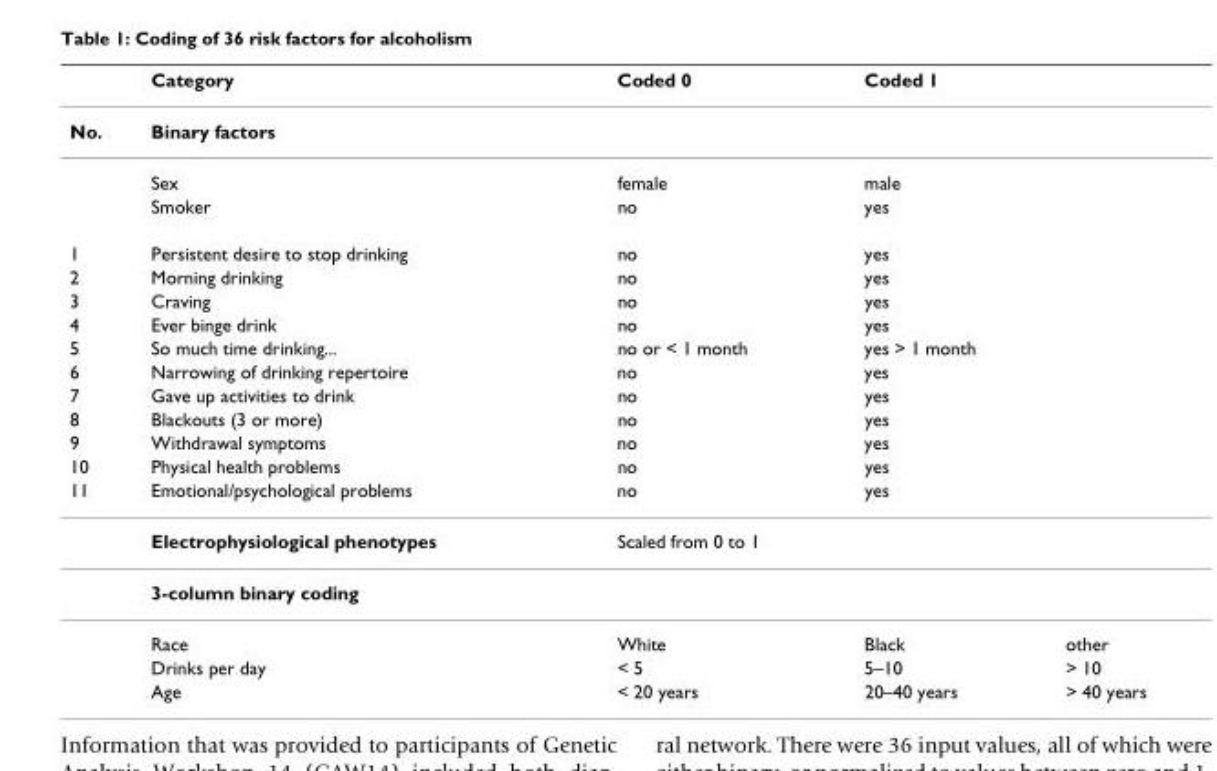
<table><thead><tr><td></td><td>Category</td><td>Coded 0</td><td>Coded 1</td><td></td></tr></thead><tbody><tr><td rowspan="3">No.</td><td>Binary factors</td><td></td><td></td><td></td></tr><tr><td>Sex</td><td>female</td><td>male</td><td></td></tr><tr><td>Smoker</td><td>no</td><td>yes</td><td></td></tr><tr><td>1</td><td>Persistent desire to stop drinking</td><td>no</td><td>yes</td><td></td></tr><tr><td>2</td><td>Morning drinking</td><td>no</td><td>yes</td><td></td></tr><tr><td>3</td><td>Craving</td><td>no</td><td>yes</td><td></td></tr><tr><td>4</td><td>Ever binge drink</td><td>no</td><td>yes</td><td></td></tr><tr><td>5</td><td>So much time drinking...</td><td>no or &lt; 1 month</td><td>yes &gt; 1 month</td><td></td></tr><tr><td>6</td><td>Narrowing of drinking repertoire</td><td>no</td><td>yes</td><td></td></tr><tr><td>7</td><td>Gave up activities to drink</td><td>no</td><td>yes</td><td></td></tr><tr><td>8</td><td>Blackouts (3 or more)</td><td>no</td><td>yes</td><td></td></tr><tr><td>9</td><td>Withdrawal symptoms</td><td>no</td><td>yes</td><td></td></tr><tr><td>10</td><td>Physical health problems</td><td>no</td><td>yes</td><td></td></tr><tr><td rowspan="6">11</td><td>Emotional/psychological problems</td><td>no</td><td>yes</td><td></td></tr><tr><td>Electrophysiological phenotypes</td><td>Scaled from 0 to 1</td><td></td><td></td></tr><tr><td>3-column binary coding</td><td></td><td></td><td></td></tr><tr><td>Race</td><td>White</td><td>Black</td><td>other</td></tr><tr><td>Drinks per day</td><td>&lt; 5</td><td>5–10</td><td>&gt; 10</td></tr><tr><td>Age</td><td>&lt; 20 years</td><td>20–40 years</td><td>&gt; 40 years</td></tr></tbody></table>